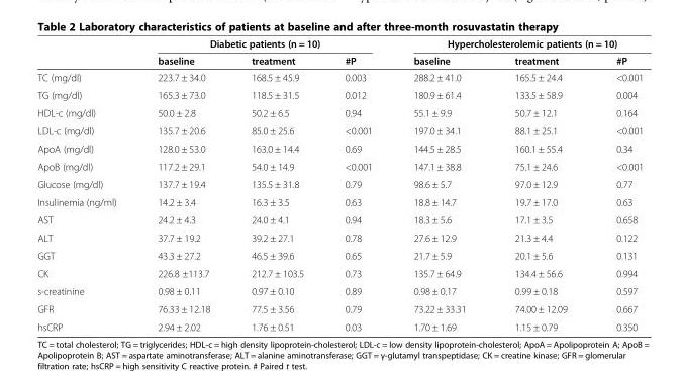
<table><thead><tr><td rowspan="2"></td><td colspan="3">Diabetic patients (n = 10)</td><td colspan="3">Hypercholesterolemic patients (n = 10)</td></tr><tr><td>baseline</td><td>treatment</td><td>#P</td><td>baseline</td><td>treatment</td><td>#P</td></tr></thead><tbody><tr><td>TC (mg/dl)</td><td>223.7 ± 34.0</td><td>168.5 ± 45.9</td><td>0.003</td><td>288.2 ± 41.0</td><td>165.5 ± 24.4</td><td>&lt;0.001</td></tr><tr><td>TG (mg/dl)</td><td>165.3 ± 73.0</td><td>118.5 ± 31.5</td><td>0.012</td><td>180.9 ± 61.4</td><td>133.5 ± 58.9</td><td>0.004</td></tr><tr><td>HDL-c (mg/dl)</td><td>50.0 ± 2.8</td><td>50.2 ± 6.5</td><td>0.94</td><td>55.1 ± 9.9</td><td>50.7 ± 12.1</td><td>0.164</td></tr><tr><td>LDL-c (mg/dl)</td><td>135.7 ± 20.6</td><td>85.0 ± 25.6</td><td>&lt;0.001</td><td>197.0 ± 34.1</td><td>88.1 ± 25.1</td><td>&lt;0.001</td></tr><tr><td>ApoA (mg/dl)</td><td>128.0 ± 53.0</td><td>163.0 ± 14.4</td><td>0.69</td><td>144.5 ± 28.5</td><td>160.1 ± 55.4</td><td>0.34</td></tr><tr><td>ApoB (mg/dl)</td><td>117.2 ± 29.1</td><td>54.0 ± 14.9</td><td>&lt;0.001</td><td>147.1 ± 38.8</td><td>75.1 ± 24.6</td><td>&lt;0.001</td></tr><tr><td>Glucose (mg/dl)</td><td>137.7 ± 19.4</td><td>135.5 ± 31.8</td><td>0.79</td><td>98.6 ± 5.7</td><td>97.0 ± 12.9</td><td>0.77</td></tr><tr><td>Insulinemia (ng/ml)</td><td>14.2 ± 3.4</td><td>16.3 ± 3.5</td><td>0.63</td><td>18.8 ± 14.7</td><td>19.7 ± 17.0</td><td>0.63</td></tr><tr><td>AST</td><td>24.2 ± 4.3</td><td>24.0 ± 4.1</td><td>0.94</td><td>18.3 ± 5.6</td><td>17.1 ± 3.5</td><td>0.658</td></tr><tr><td>ALT</td><td>37.7 ± 19.2</td><td>39.2 ± 27.1</td><td>0.78</td><td>27.6 ± 12.9</td><td>21.3 ± 4.4</td><td>0.122</td></tr><tr><td>GGT</td><td>43.3 ± 27.2</td><td>46.5 ± 39.6</td><td>0.65</td><td>21.7 ± 5.9</td><td>20.1 ± 5.6</td><td>0.131</td></tr><tr><td>CK</td><td>226.8 ±113.7</td><td>212.7 ± 103.5</td><td>0.73</td><td>135.7 ± 64.9</td><td>134.4 ± 56.6</td><td>0.994</td></tr><tr><td>s-creatinine</td><td>0.98 ± 0.11</td><td>0.97 ± 0.10</td><td>0.89</td><td>0.98 ± 0.17</td><td>0.99 ± 0.18</td><td>0.597</td></tr><tr><td>GFR</td><td>76.33 ± 12.18</td><td>77.5 ± 3.56</td><td>0.79</td><td>73.22 ± 33.31</td><td>74.00 ± 12.09</td><td>0.667</td></tr><tr><td>hsCRP</td><td>2.94 ± 2.02</td><td>1.76 ± 0.51</td><td>0.03</td><td>1.70 ± 1.69</td><td>1.15 ± 0.79</td><td>0.350</td></tr></tbody></table>